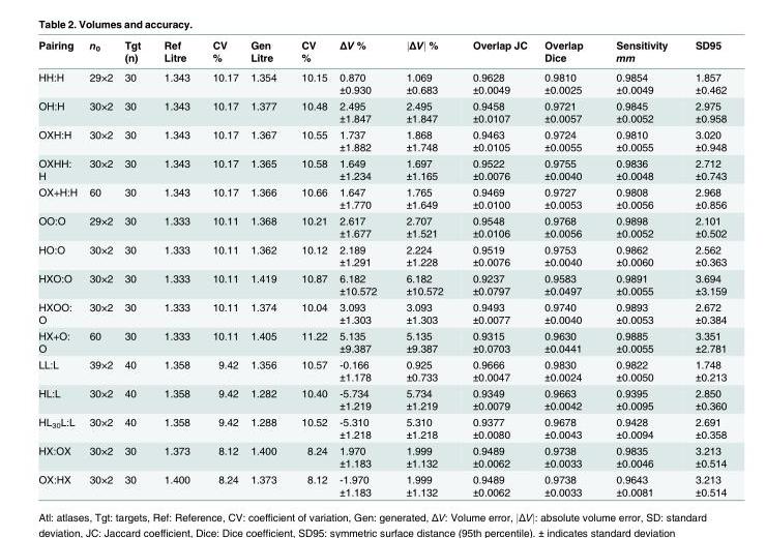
<table><thead><tr><td>Pairing</td><td>n<sub>0</sub></td><td>Tgt (n)</td><td>Ref Litre</td><td>CV %</td><td>Gen Litre</td><td>CV %</td><td>ΔV %</td><td>|ΔV| %</td><td>Overlap JC</td><td>Overlap Dice</td><td>Sensitivity mm</td><td>SD95</td></tr></thead><tbody><tr><td>HH:H</td><td>29×2</td><td>30</td><td>1.343</td><td>10.17</td><td>1.354</td><td>10.15</td><td>0.870 ±0.930</td><td>1.069 ±0.683</td><td>0.9628 ±0.0049</td><td>0.9810 ±0.0025</td><td>0.9854 ±0.0049</td><td>1.857 ±0.462</td></tr><tr><td>OH:H</td><td>30×2</td><td>30</td><td>1.343</td><td>10.17</td><td>1.377</td><td>10.48</td><td>2.495 ±1.847</td><td>2.495 ±1.847</td><td>0.9458 ±0.0107</td><td>0.9721 ±0.0057</td><td>0.9845 ±0.0052</td><td>2.975 ±0.958</td></tr><tr><td>OXH:H</td><td>30×2</td><td>30</td><td>1.343</td><td>10.17</td><td>1.367</td><td>10.55</td><td>1.737 ±1.882</td><td>1.868 ±1.748</td><td>0.9463 ±0.0105</td><td>0.9724 ±0.0055</td><td>0.9810 ±0.0055</td><td>3.020 ±0.948</td></tr><tr><td>OXHH: H</td><td>30×2</td><td>30</td><td>1.343</td><td>10.17</td><td>1.365</td><td>10.58</td><td>1.649 ±1.234</td><td>1.697 ±1.165</td><td>0.9522 ±0.0076</td><td>0.9755 ±0.0040</td><td>0.9836 ±0.0048</td><td>2.712 ±0.743</td></tr><tr><td>OX+H:H</td><td>60</td><td>30</td><td>1.343</td><td>10.17</td><td>1.366</td><td>10.66</td><td>1.647 ±1.770</td><td>1.765 ±1.649</td><td>0.9469 ±0.0100</td><td>0.9727 ±0.0053</td><td>0.9808 ±0.0056</td><td>2.968 ±0.856</td></tr><tr><td>OO:O</td><td>29×2</td><td>30</td><td>1.333</td><td>10.11</td><td>1.368</td><td>10.21</td><td>2.617 ±1.677</td><td>2.707 ±1.521</td><td>0.9548 ±0.0106</td><td>0.9768 ±0.0056</td><td>0.9898 ±0.0052</td><td>2.101 ±0.502</td></tr><tr><td>HO:O</td><td>30×2</td><td>30</td><td>1.333</td><td>10.11</td><td>1.362</td><td>10.12</td><td>2.189 ±1.291</td><td>2.224 ±1.228</td><td>0.9519 ±0.0076</td><td>0.9753 ±0.0040</td><td>0.9862 ±0.0060</td><td>2.562 ±0.363</td></tr><tr><td>HXO:O</td><td>30×2</td><td>30</td><td>1.333</td><td>10.11</td><td>1.419</td><td>10.87</td><td>6.182 ±10.572</td><td>6.182 ±10.572</td><td>0.9237 ±0.0797</td><td>0.9583 ±0.0497</td><td>0.9891 ±0.0055</td><td>3.694 ±3.159</td></tr><tr><td>HXOO: O</td><td>30×2</td><td>30</td><td>1.333</td><td>10.11</td><td>1.374</td><td>10.04</td><td>3.093 ±1.303</td><td>3.093 ±1.303</td><td>0.9493 ±0.0077</td><td>0.9740 ±0.0040</td><td>0.9893 ±0.0053</td><td>2.672 ±0.384</td></tr><tr><td>HX+O: O</td><td>60</td><td>30</td><td>1.333</td><td>10.11</td><td>1.405</td><td>11.22</td><td>5.135 ±9.387</td><td>5.135 ±9.387</td><td>0.9315 ±0.0703</td><td>0.9630 ±0.0441</td><td>0.9885 ±0.0055</td><td>3.351 ±2.781</td></tr><tr><td>LL:L</td><td>39×2</td><td>40</td><td>1.358</td><td>9.42</td><td>1.356</td><td>10.57</td><td>-0.166 ±1.178</td><td>0.925 ±0.733</td><td>0.9666 ±0.0047</td><td>0.9830 ±0.0024</td><td>0.9822 ±0.0050</td><td>1.748 ±0.213</td></tr><tr><td>HL:L</td><td>30×2</td><td>40</td><td>1.358</td><td>9.42</td><td>1.282</td><td>10.40</td><td>-5.734 ±1.219</td><td>5.734 ±1.219</td><td>0.9349 ±0.0079</td><td>0.9663 ±0.0042</td><td>0.9395 ±0.0095</td><td>2.850 ±0.360</td></tr><tr><td>HL<sub>30</sub>L:L</td><td>30×2</td><td>40</td><td>1.358</td><td>9.42</td><td>1.288</td><td>10.52</td><td>-5.310 ±1.218</td><td>5.310 ±1.218</td><td>0.9377 ±0.0080</td><td>0.9678 ±0.0043</td><td>0.9428 ±0.0094</td><td>2.691 ±0.358</td></tr><tr><td>HX:OX</td><td>30×2</td><td>30</td><td>1.373</td><td>8.12</td><td>1.400</td><td>8.24</td><td>1.970 ±1.183</td><td>1.999 ±1.132</td><td>0.9489 ±0.0062</td><td>0.9738 ±0.0033</td><td>0.9835 ±0.0046</td><td>3.213 ±0.514</td></tr><tr><td>OX:HX</td><td>30×2</td><td>30</td><td>1.400</td><td>8.24</td><td>1.373</td><td>8.12</td><td>-1.970 ±1.183</td><td>1.999 ±1.132</td><td>0.9489 ±0.0062</td><td>0.9738 ±0.0033</td><td>0.9643 ±0.0081</td><td>3.213 ±0.514</td></tr></tbody></table>